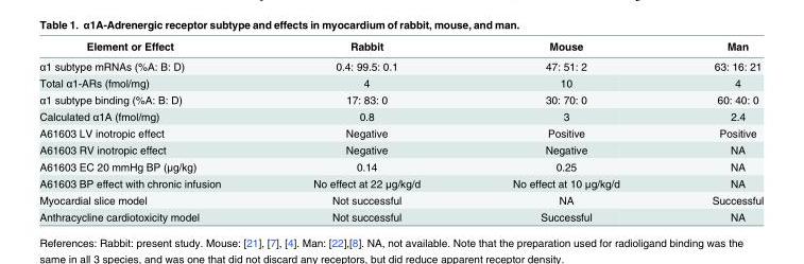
<table><thead><tr><td>Element or Effect</td><td>Rabbit</td><td>Mouse</td><td>Man</td></tr></thead><tbody><tr><td>α1 subtype mRNAs (%A: B: D)</td><td>0.4: 99.5: 0.1</td><td>47: 51: 2</td><td>63: 16: 21</td></tr><tr><td>Total α1-ARs (fmol/mg)</td><td>4</td><td>10</td><td>4</td></tr><tr><td>α1 subtype binding (%A: B: D)</td><td>17: 83: 0</td><td>30: 70: 0</td><td>60: 40: 0</td></tr><tr><td>Calculated α1A (fmol/mg)</td><td>0.8</td><td>3</td><td>2.4</td></tr><tr><td>A61603 LV inotropic effect</td><td>Negative</td><td>Positive</td><td>Positive</td></tr><tr><td>A61603 RV inotropic effect</td><td>Negative</td><td>Negative</td><td>NA</td></tr><tr><td>A61603 EC 20 mmHg BP (μg/kg)</td><td>0.14</td><td>0.25</td><td>NA</td></tr><tr><td>A61603 BP effect with chronic infusion</td><td>No effect at 22 μg/kg/d</td><td>No effect at 10 μg/kg/d</td><td>NA</td></tr><tr><td>Myocardial slice model</td><td>Not successful</td><td>NA</td><td>Successful</td></tr><tr><td>Anthracycline cardiotoxicity model</td><td>Not successful</td><td>Successful</td><td>NA</td></tr></tbody></table>